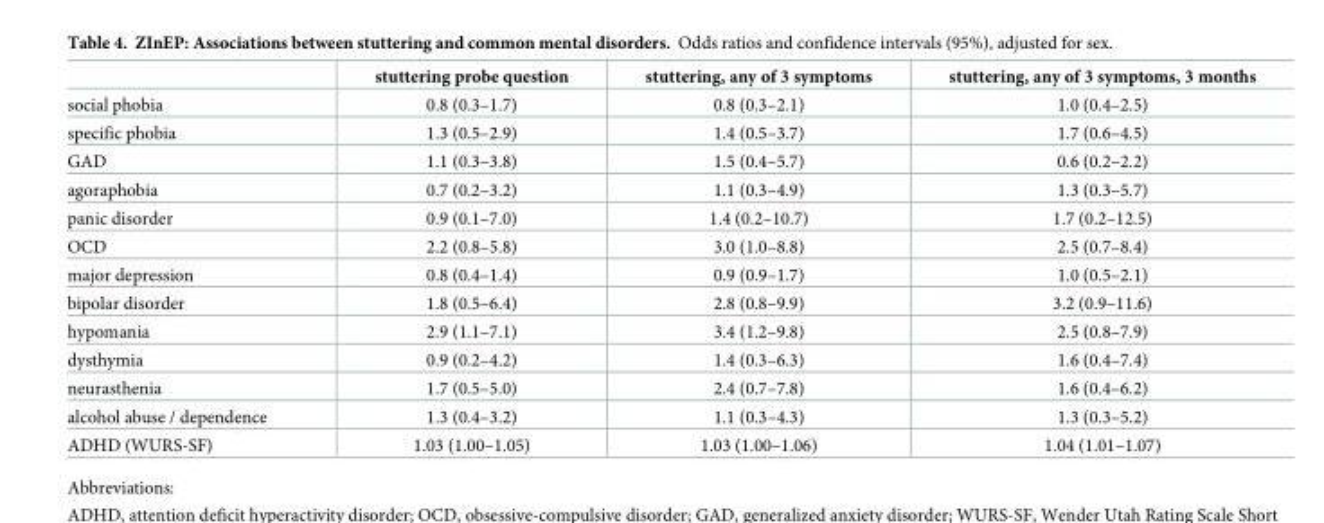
<table><thead><tr><td></td><td>stuttering probe question</td><td>stuttering, any of 3 symptoms</td><td>stuttering, any of 3 symptoms, 3 months</td></tr></thead><tbody><tr><td>social phobia</td><td>0.8 (0.3–1.7)</td><td>0.8 (0.3–2.1)</td><td>1.0 (0.4–2.5)</td></tr><tr><td>specific phobia</td><td>1.3 (0.5–2.9)</td><td>1.4 (0.5–3.7)</td><td>1.7 (0.6–4.5)</td></tr><tr><td>GAD</td><td>1.1 (0.3–3.8)</td><td>1.5 (0.4–5.7)</td><td>0.6 (0.2–2.2)</td></tr><tr><td>agoraphobia</td><td>0.7 (0.2–3.2)</td><td>1.1 (0.3–4.9)</td><td>1.3 (0.3–5.7)</td></tr><tr><td>panic disorder</td><td>0.9 (0.1–7.0)</td><td>1.4 (0.2–10.7)</td><td>1.7 (0.2–12.5)</td></tr><tr><td>OCD</td><td>2.2 (0.8–5.8)</td><td>3.0 (1.0–8.8)</td><td>2.5 (0.7–8.4)</td></tr><tr><td>major depression</td><td>0.8 (0.4–1.4)</td><td>0.9 (0.9–1.7)</td><td>1.0 (0.5–2.1)</td></tr><tr><td>bipolar disorder</td><td>1.8 (0.5–6.4)</td><td>2.8 (0.8–9.9)</td><td>3.2 (0.9–11.6)</td></tr><tr><td>hypomania</td><td>2.9 (1.1–7.1)</td><td>3.4 (1.2–9.8)</td><td>2.5 (0.8–7.9)</td></tr><tr><td>dysthymia</td><td>0.9 (0.2–4.2)</td><td>1.4 (0.3–6.3)</td><td>1.6 (0.4–7.4)</td></tr><tr><td>neurasthenia</td><td>1.7 (0.5–5.0)</td><td>2.4 (0.7–7.8)</td><td>1.6 (0.4–6.2)</td></tr><tr><td>alcohol abuse / dependence</td><td>1.3 (0.4–3.2)</td><td>1.1 (0.3–4.3)</td><td>1.3 (0.3–5.2)</td></tr><tr><td>ADHD (WURS-SF)</td><td>1.03 (1.00–1.05)</td><td>1.03 (1.00–1.06)</td><td>1.04 (1.01–1.07)</td></tr></tbody></table>